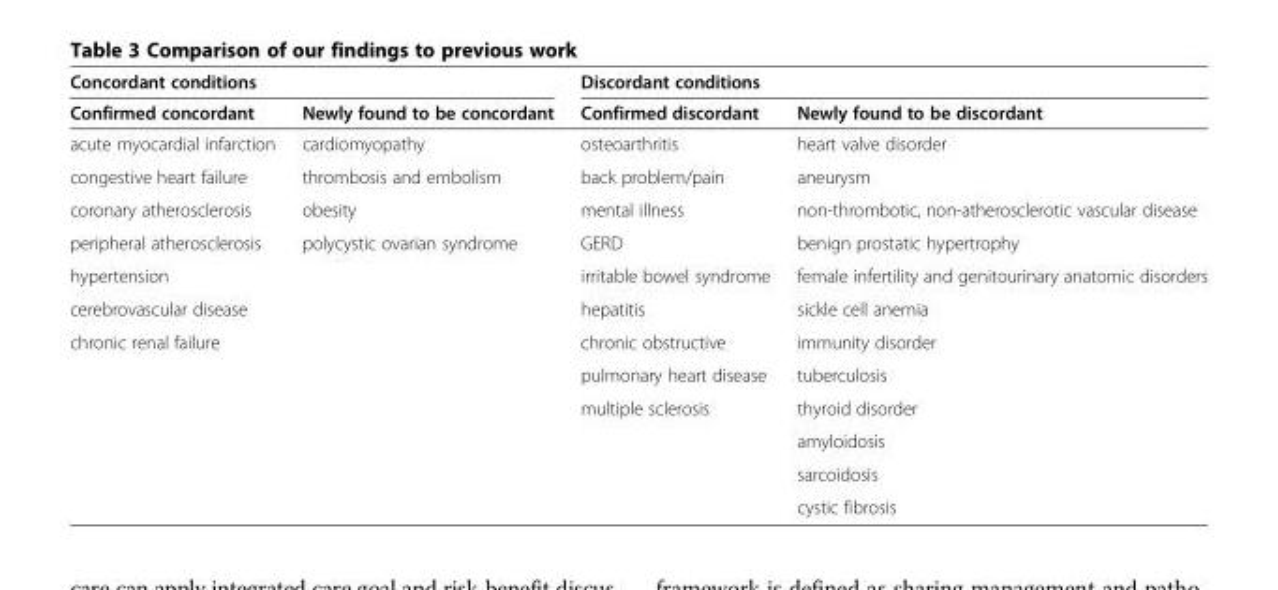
<table><thead><tr><td colspan="2">Concordant conditions</td><td colspan="2">Discordant conditions</td></tr><tr><td>Confirmed concordant</td><td>Newly found to be concordant</td><td>Confirmed discordant</td><td>Newly found to be discordant</td></tr></thead><tbody><tr><td>acute myocardial infarction</td><td>cardiomyopathy</td><td>osteoarthritis</td><td>heart valve disorder</td></tr><tr><td>congestive heart failure</td><td>thrombosis and embolism</td><td>back problem/pain</td><td>aneurysm</td></tr><tr><td>coronary atherosclerosis</td><td>obesity</td><td>mental illness</td><td>non-thrombotic, non-atherosclerotic vascular disease</td></tr><tr><td>peripheral atherosclerosis</td><td>polycystic ovarian syndrome</td><td>GERD</td><td>benign prostatic hypertrophy</td></tr><tr><td>hypertension</td><td></td><td>irritable bowel syndrome</td><td>female infertility and genitourinary anatomic disorders</td></tr><tr><td>cerebrovascular disease</td><td></td><td>hepatitis</td><td>sickle cell anemia</td></tr><tr><td rowspan="6">chronic renal failure</td><td></td><td>chronic obstructive</td><td>immunity disorder</td></tr><tr><td></td><td>pulmonary heart disease</td><td>tuberculosis</td></tr><tr><td></td><td>multiple sclerosis</td><td>thyroid disorder</td></tr><tr><td></td><td></td><td>amyloidosis</td></tr><tr><td></td><td></td><td>sarcoidosis</td></tr><tr><td></td><td></td><td>cystic fibrosis</td></tr></tbody></table>